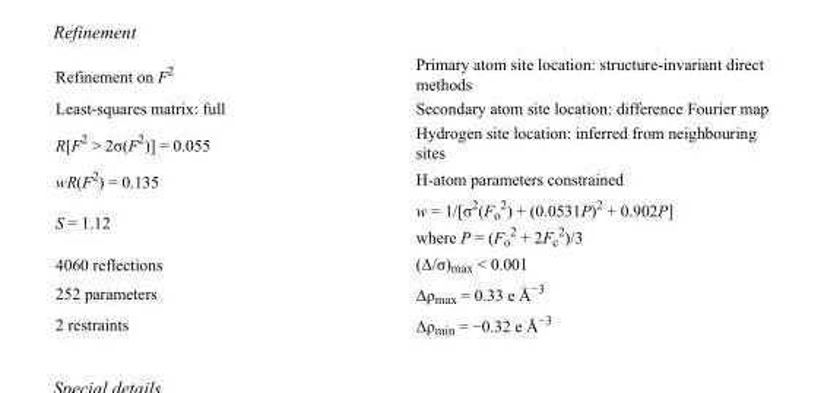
<table><tbody><tr><td>Refinement on F<sup>2</sup></td><td>Primary atom site location: structure-invariant direct methods</td></tr><tr><td>Least-squares matrix: full</td><td>Secondary atom site location: difference Fourier map</td></tr><tr><td>R[F<sup>2</sup> &gt; 2σ(F<sup>2</sup>)] = 0.055</td><td>Hydrogen site location: inferred from neighbouring sites</td></tr><tr><td>wR(F<sup>2</sup>) = 0.135</td><td>H-atom parameters constrained</td></tr><tr><td>S = 1.12</td><td>w = 1/[σ<sup>2</sup>(F<sub>o</sub> <sup>2</sup>) + (0.0531P)<sup>2</sup> + 0.902P] where P = (F<sub>o</sub> <sup>2</sup> + 2F<sub>c</sub> <sup>2</sup>)/3</td></tr><tr><td>4060 reflections</td><td>(Δ/σ)<sub>max</sub> &lt; 0.001</td></tr><tr><td>252 parameters</td><td>Δρ<sub>max</sub> = 0.33 e Å<sup>−3</sup></td></tr><tr><td>2 restraints</td><td>Δρ<sub>min</sub> = −0.32 e Å<sup>−3</sup></td></tr></tbody></table>